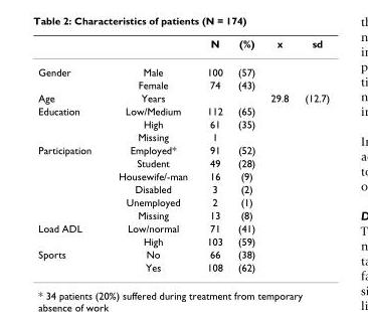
<table><thead><tr><td></td><td></td><td>N</td><td>(%)</td><td>x</td><td>sd</td></tr></thead><tbody><tr><td rowspan="2">Gender</td><td>Male</td><td>100</td><td>(57)</td><td></td><td></td></tr><tr><td>Female</td><td>74</td><td>(43)</td><td></td><td></td></tr><tr><td>Age</td><td>Years</td><td></td><td></td><td>29.8</td><td>(12.7)</td></tr><tr><td rowspan="3">Education</td><td>Low/Medium</td><td>112</td><td>(65)</td><td></td><td></td></tr><tr><td>High</td><td>61</td><td>(35)</td><td></td><td></td></tr><tr><td>Missing</td><td>1</td><td></td><td></td><td></td></tr><tr><td rowspan="6">Participation</td><td>Employed*</td><td>91</td><td>(52)</td><td></td><td></td></tr><tr><td>Student</td><td>49</td><td>(28)</td><td></td><td></td></tr><tr><td>Housewife/-man</td><td>16</td><td>(9)</td><td></td><td></td></tr><tr><td>Disabled</td><td>3</td><td>(2)</td><td></td><td></td></tr><tr><td>Unemployed</td><td>2</td><td>(1)</td><td></td><td></td></tr><tr><td>Missing</td><td>13</td><td>(8)</td><td></td><td></td></tr><tr><td rowspan="2">Load ADL</td><td>Low/normal</td><td>71</td><td>(41)</td><td></td><td></td></tr><tr><td>High</td><td>103</td><td>(59)</td><td></td><td></td></tr><tr><td rowspan="2">Sports</td><td>No</td><td>66</td><td>(38)</td><td></td><td></td></tr><tr><td>Yes</td><td>108</td><td>(62)</td><td></td><td></td></tr></tbody></table>